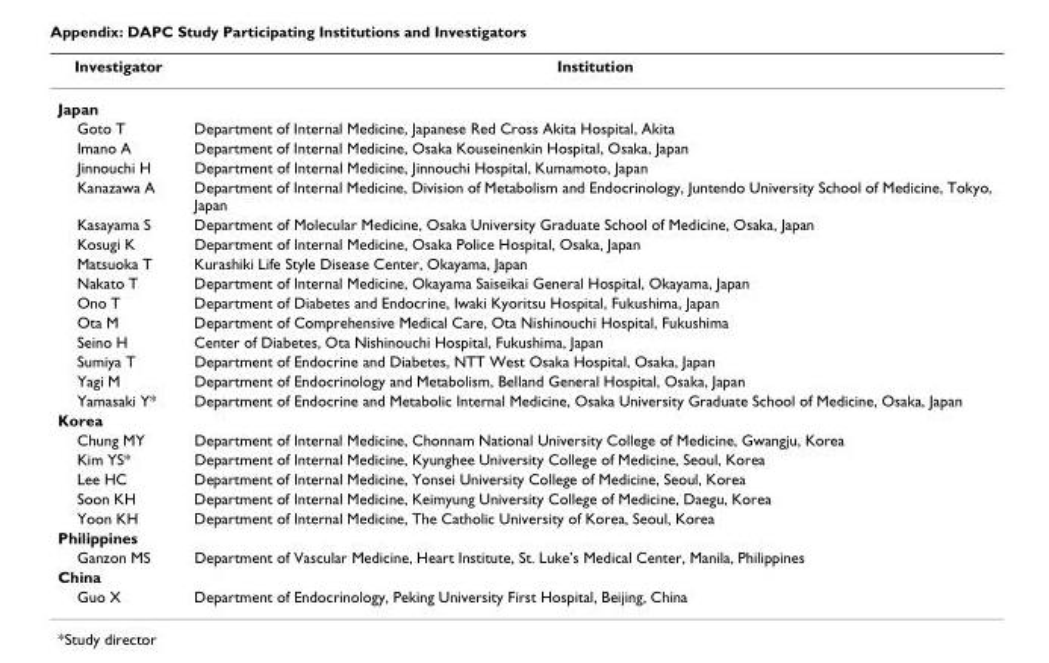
<table><thead><tr><td>Investigator</td><td>Institution</td></tr></thead><tbody><tr><td colspan="2">Japan</td></tr><tr><td>Goto T</td><td>Department of Internal Medicine, Japanese Red Cross Akita Hospital, Akita</td></tr><tr><td>Imano A</td><td>Department of Internal Medicine, Osaka Kouseinenkin Hospital, Osaka, Japan</td></tr><tr><td>Jinnouchi H</td><td>Department of Internal Medicine, Jinnouchi Hospital, Kumamoto, Japan</td></tr><tr><td>Kanazawa A</td><td>Department of Internal Medicine, Division of Metabolism and Endocrinology, Juntendo University School of Medicine, Tokyo, Japan</td></tr><tr><td>Kasayama S</td><td>Department of Molecular Medicine, Osaka University Graduate School of Medicine, Osaka, Japan</td></tr><tr><td>Kosugi K</td><td>Department of Internal Medicine, Osaka Police Hospital, Osaka, Japan</td></tr><tr><td>Matsuoka T</td><td>Kurashiki Life Style Disease Center, Okayama, Japan</td></tr><tr><td>Nakato T</td><td>Department of Internal Medicine, Okayama Saiseikai General Hospital, Okayama, Japan</td></tr><tr><td>Ono T</td><td>Department of Diabetes and Endocrine, Iwaki Kyoritsu Hospital, Fukushima, Japan</td></tr><tr><td>Ota M</td><td>Department of Comprehensive Medical Care, Ota Nishinouchi Hospital, Fukushima</td></tr><tr><td>Seino H</td><td>Center of Diabetes, Ota Nishinouchi Hospital, Fukushima, Japan</td></tr><tr><td>Sumiya T</td><td>Department of Endocrine and Diabetes, NTT West Osaka Hospital, Osaka, Japan</td></tr><tr><td>Yagi M</td><td>Department of Endocrinology and Metabolism, Belland General Hospital, Osaka, Japan</td></tr><tr><td>Yamasaki Y*</td><td>Department of Endocrine and Metabolic Internal Medicine, Osaka University Graduate School of Medicine, Osaka, Japan</td></tr><tr><td colspan="2">Korea</td></tr><tr><td>Chung MY</td><td>Department of Internal Medicine, Chonnam National University College of Medicine, Gwangju, Korea</td></tr><tr><td>Kim YS*</td><td>Department of Internal Medicine, Kyunghee University College of Medicine, Seoul, Korea</td></tr><tr><td>Lee HC</td><td>Department of Internal Medicine, Yonsei University College of Medicine, Seoul, Korea</td></tr><tr><td>Soon KH</td><td>Department of Internal Medicine, Keimyung University College of Medicine, Daegu, Korea</td></tr><tr><td>Yoon KH</td><td>Department of Internal Medicine, The Catholic University of Korea, Seoul, Korea</td></tr><tr><td colspan="2">Philippines</td></tr><tr><td>Ganzon MS</td><td>Department of Vascular Medicine, Heart Institute, St. Luke’s Medical Center, Manila, Philippines</td></tr><tr><td colspan="2">China</td></tr><tr><td>Guo X</td><td>Department of Endocrinology, Peking University First Hospital, Beijing, China</td></tr></tbody></table>